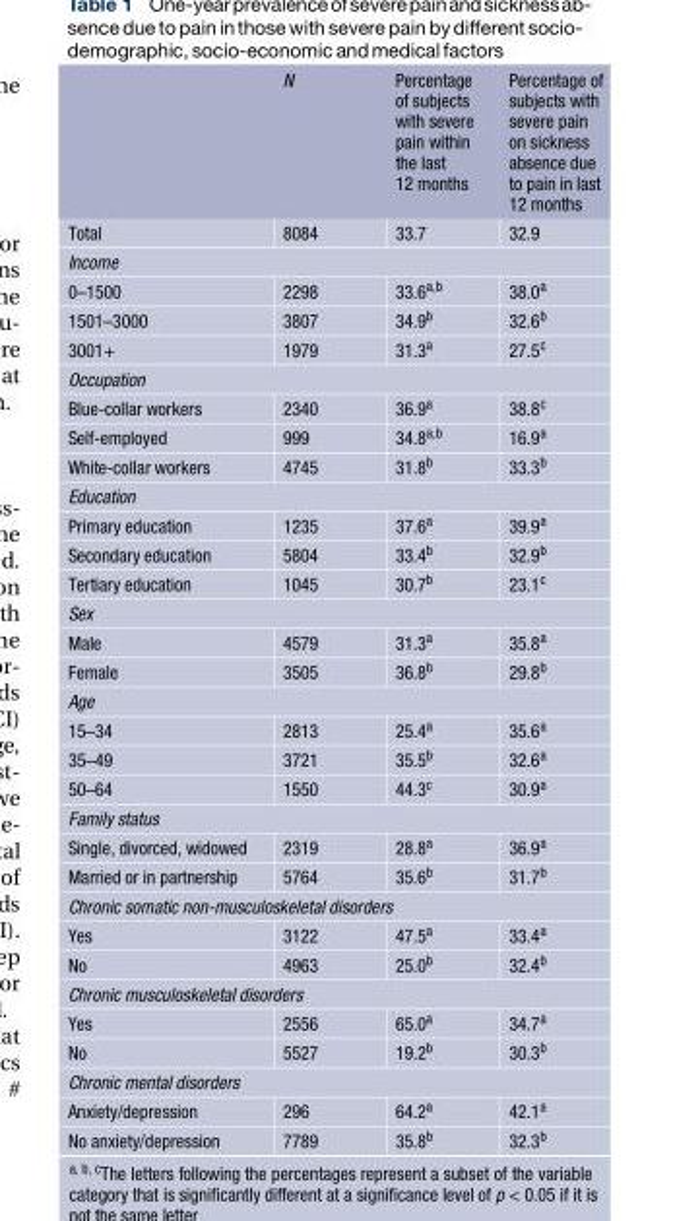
<table><thead><tr><td></td><td>N</td><td>Percentage of subjects with severe pain within the last 12 months</td><td>Percentage of subjects with severe pain on sickness absence due to pain in last 12 months</td></tr></thead><tbody><tr><td>Total</td><td>8084</td><td>33.7</td><td>32.9</td></tr><tr><td colspan="4">Income</td></tr><tr><td>0–1500</td><td>2298</td><td>33.6<sup>a,b</sup></td><td>38.0<sup>a</sup></td></tr><tr><td>1501–3000</td><td>3807</td><td>34.9<sup>b</sup></td><td>32.6<sup>b</sup></td></tr><tr><td>3001+</td><td>1979</td><td>31.3<sup>a</sup></td><td>27.5<sup>c</sup></td></tr><tr><td colspan="4">Occupation</td></tr><tr><td>Blue-collar workers</td><td>2340</td><td>36.9<sup>a</sup></td><td>38.8<sup>c</sup></td></tr><tr><td>Self-employed</td><td>999</td><td>34.8<sup>a,b</sup></td><td>16.9<sup>a</sup></td></tr><tr><td>White-collar workers</td><td>4745</td><td>31.8<sup>b</sup></td><td>33.3<sup>b</sup></td></tr><tr><td colspan="4">Education</td></tr><tr><td>Primary education</td><td>1235</td><td>37.6<sup>a</sup></td><td>39.9<sup>a</sup></td></tr><tr><td>Secondary education</td><td>5804</td><td>33.4<sup>b</sup></td><td>32.9<sup>b</sup></td></tr><tr><td>Tertiary education</td><td>1045</td><td>30.7<sup>b</sup></td><td>23.1<sup>c</sup></td></tr><tr><td colspan="4">Sex</td></tr><tr><td>Male</td><td>4579</td><td>31.3<sup>a</sup></td><td>35.8<sup>a</sup></td></tr><tr><td>Female</td><td>3505</td><td>36.8<sup>b</sup></td><td>29.8<sup>b</sup></td></tr><tr><td colspan="4">Age</td></tr><tr><td>15–34</td><td>2813</td><td>25.4<sup>a</sup></td><td>35.6<sup>a</sup></td></tr><tr><td>35–49</td><td>3721</td><td>35.5<sup>b</sup></td><td>32.6<sup>a</sup></td></tr><tr><td>50–64</td><td>1550</td><td>44.3<sup>c</sup></td><td>30.9<sup>a</sup></td></tr><tr><td colspan="4">Family status</td></tr><tr><td>Single, divorced, widowed</td><td>2319</td><td>28.8<sup>a</sup></td><td>36.9<sup>a</sup></td></tr><tr><td>Married or in partnership</td><td>5764</td><td>35.6<sup>b</sup></td><td>31.7<sup>b</sup></td></tr><tr><td colspan="4">Chronic somatic non-musculoskeletal disorders</td></tr><tr><td>Yes</td><td>3122</td><td>47.5<sup>a</sup></td><td>33.4<sup>a</sup></td></tr><tr><td>No</td><td>4963</td><td>25.0<sup>b</sup></td><td>32.4<sup>b</sup></td></tr><tr><td colspan="4">Chronic musculoskeletal disorders</td></tr><tr><td>Yes</td><td>2556</td><td>65.0<sup>a</sup></td><td>34.7<sup>a</sup></td></tr><tr><td>No</td><td>5527</td><td>19.2<sup>b</sup></td><td>30.3<sup>b</sup></td></tr><tr><td colspan="4">Chronic mental disorders</td></tr><tr><td>Anxiety/depression</td><td>296</td><td>64.2<sup>a</sup></td><td>42.1<sup>a</sup></td></tr><tr><td>No anxiety/depression</td><td>7789</td><td>35.8<sup>b</sup></td><td>32.3<sup>b</sup></td></tr></tbody></table>